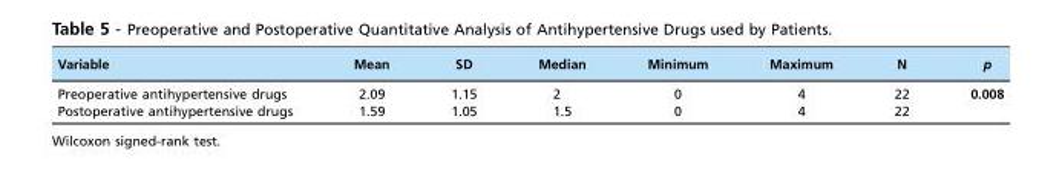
<table><thead><tr><td>Variable</td><td>Mean</td><td>SD</td><td>Median</td><td>Minimum</td><td>Maximum</td><td>N</td><td>p</td></tr></thead><tbody><tr><td>Preoperative antihypertensive drugs</td><td>2.09</td><td>1.15</td><td>2</td><td>0</td><td>4</td><td>22</td><td>0.008</td></tr><tr><td>Postoperative antihypertensive drugs</td><td>1.59</td><td>1.05</td><td>1.5</td><td>0</td><td>4</td><td>22</td><td></td></tr></tbody></table>